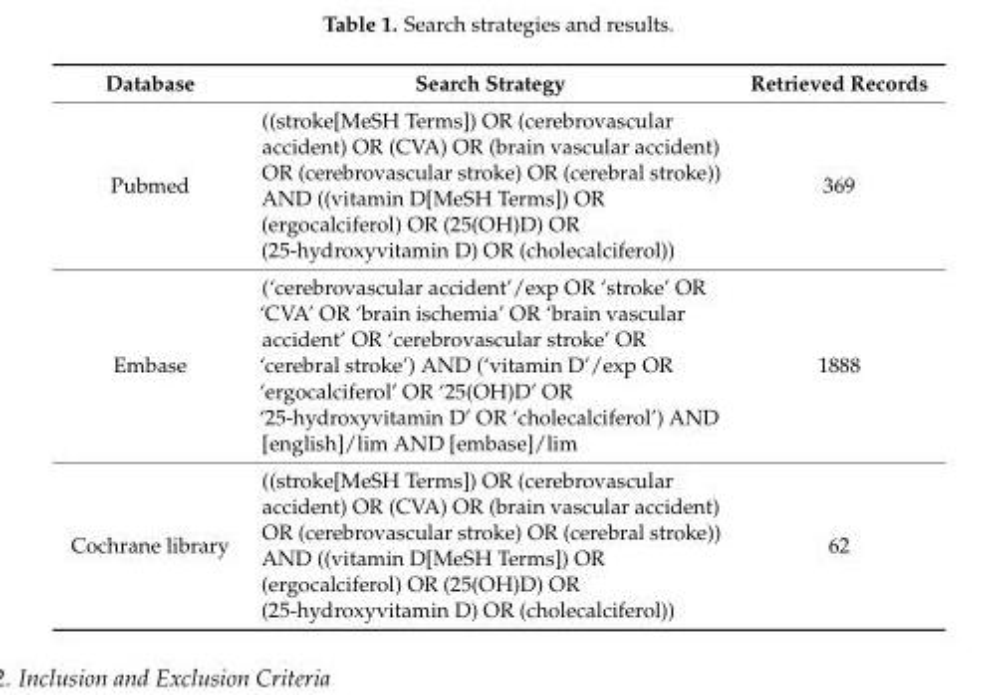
<table><thead><tr><td>Database</td><td>Search Strategy</td><td>Retrieved Records</td></tr></thead><tbody><tr><td>Pubmed</td><td>((stroke[MeSH Terms]) OR (cerebrovascular accident) OR (CVA) OR (brain vascular accident) OR (cerebrovascular stroke) OR (cerebral stroke)) AND ((vitamin D[MeSH Terms]) OR (ergocalciferol) OR (25(OH)D) OR (25-hydroxyvitamin D) OR (cholecalciferol))</td><td>369</td></tr><tr><td>Embase</td><td>(‘cerebrovascular accident’/exp OR ‘stroke’ OR ‘CVA’ OR ‘brain ischemia’ OR ‘brain vascular accident’ OR ‘cerebrovascular stroke’ OR ‘cerebral stroke’) AND (‘vitamin D’/exp OR ‘ergocalciferol’ OR ‘25(OH)D’ OR ‘25-hydroxyvitamin D’ OR ‘cholecalciferol’) AND [english]/lim AND [embase]/lim</td><td>1888</td></tr><tr><td>Cochrane library</td><td>((stroke[MeSH Terms]) OR (cerebrovascular accident) OR (CVA) OR (brain vascular accident) OR (cerebrovascular stroke) OR (cerebral stroke)) AND ((vitamin D[MeSH Terms]) OR (ergocalciferol) OR (25(OH)D) OR (25-hydroxyvitamin D) OR (cholecalciferol))</td><td>62</td></tr></tbody></table>